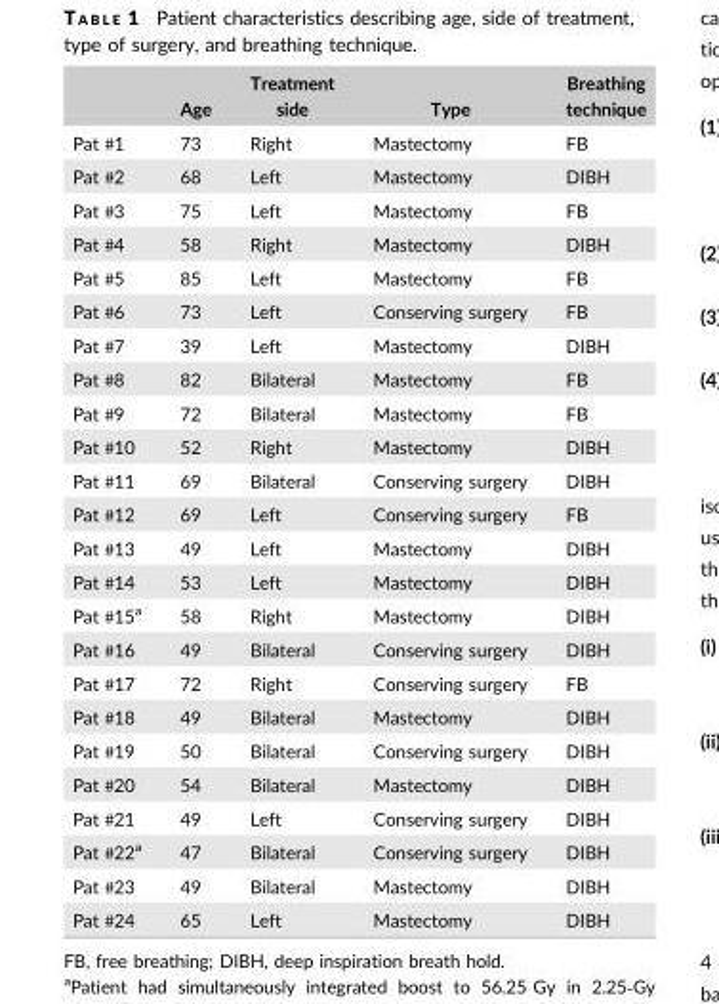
<table><thead><tr><td></td><td>Age</td><td>Treatment side</td><td>Type</td><td>Breathing technique</td></tr></thead><tbody><tr><td>Pat #1</td><td>73</td><td>Right</td><td>Mastectomy</td><td>FB</td></tr><tr><td>Pat #2</td><td>68</td><td>Left</td><td>Mastectomy</td><td>DIBH</td></tr><tr><td>Pat #3</td><td>75</td><td>Left</td><td>Mastectomy</td><td>FB</td></tr><tr><td>Pat #4</td><td>58</td><td>Right</td><td>Mastectomy</td><td>DIBH</td></tr><tr><td>Pat #5</td><td>85</td><td>Left</td><td>Mastectomy</td><td>FB</td></tr><tr><td>Pat #6</td><td>73</td><td>Left</td><td>Conserving surgery</td><td>FB</td></tr><tr><td>Pat #7</td><td>39</td><td>Left</td><td>Mastectomy</td><td>DIBH</td></tr><tr><td>Pat #8</td><td>82</td><td>Bilateral</td><td>Mastectomy</td><td>FB</td></tr><tr><td>Pat #9</td><td>72</td><td>Bilateral</td><td>Mastectomy</td><td>FB</td></tr><tr><td>Pat #10</td><td>52</td><td>Right</td><td>Mastectomy</td><td>DIBH</td></tr><tr><td>Pat #11</td><td>69</td><td>Bilateral</td><td>Conserving surgery</td><td>DIBH</td></tr><tr><td>Pat #12</td><td>69</td><td>Left</td><td>Conserving surgery</td><td>FB</td></tr><tr><td>Pat #13</td><td>49</td><td>Left</td><td>Mastectomy</td><td>DIBH</td></tr><tr><td>Pat #14</td><td>53</td><td>Left</td><td>Mastectomy</td><td>DIBH</td></tr><tr><td>Pat #15<sup>a</sup></td><td>58</td><td>Right</td><td>Mastectomy</td><td>DIBH</td></tr><tr><td>Pat #16</td><td>49</td><td>Bilateral</td><td>Conserving surgery</td><td>DIBH</td></tr><tr><td>Pat #17</td><td>72</td><td>Right</td><td>Conserving surgery</td><td>FB</td></tr><tr><td>Pat #18</td><td>49</td><td>Bilateral</td><td>Mastectomy</td><td>DIBH</td></tr><tr><td>Pat #19</td><td>50</td><td>Bilateral</td><td>Conserving surgery</td><td>DIBH</td></tr><tr><td>Pat #20</td><td>54</td><td>Bilateral</td><td>Mastectomy</td><td>DIBH</td></tr><tr><td>Pat #21</td><td>49</td><td>Left</td><td>Conserving surgery</td><td>DIBH</td></tr><tr><td>Pat #22<sup>a</sup></td><td>47</td><td>Bilateral</td><td>Conserving surgery</td><td>DIBH</td></tr><tr><td>Pat #23</td><td>49</td><td>Bilateral</td><td>Mastectomy</td><td>DIBH</td></tr><tr><td>Pat #24</td><td>65</td><td>Left</td><td>Mastectomy</td><td>DIBH</td></tr></tbody></table>